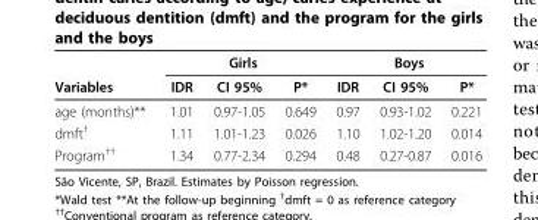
<table><thead><tr><td rowspan="2">Variables</td><td colspan="3">Girls</td><td colspan="3">Boys</td></tr><tr><td>IDR</td><td>CI 95%</td><td>P*</td><td>IDR</td><td>CI 95%</td><td>P*</td></tr></thead><tbody><tr><td>age (months)**</td><td>1.01</td><td>0.97-1.05</td><td>0.649</td><td>0.97</td><td>0.93-1.02</td><td>0.221</td></tr><tr><td>dmft<sup>†</sup></td><td>1.11</td><td>1.01-1.23</td><td>0.026</td><td>1.10</td><td>1.02-1.20</td><td>0.014</td></tr><tr><td>Program<sup>††</sup></td><td>1.34</td><td>0.77-2.34</td><td>0.294</td><td>0.48</td><td>0.27-0.87</td><td>0.016</td></tr></tbody></table>